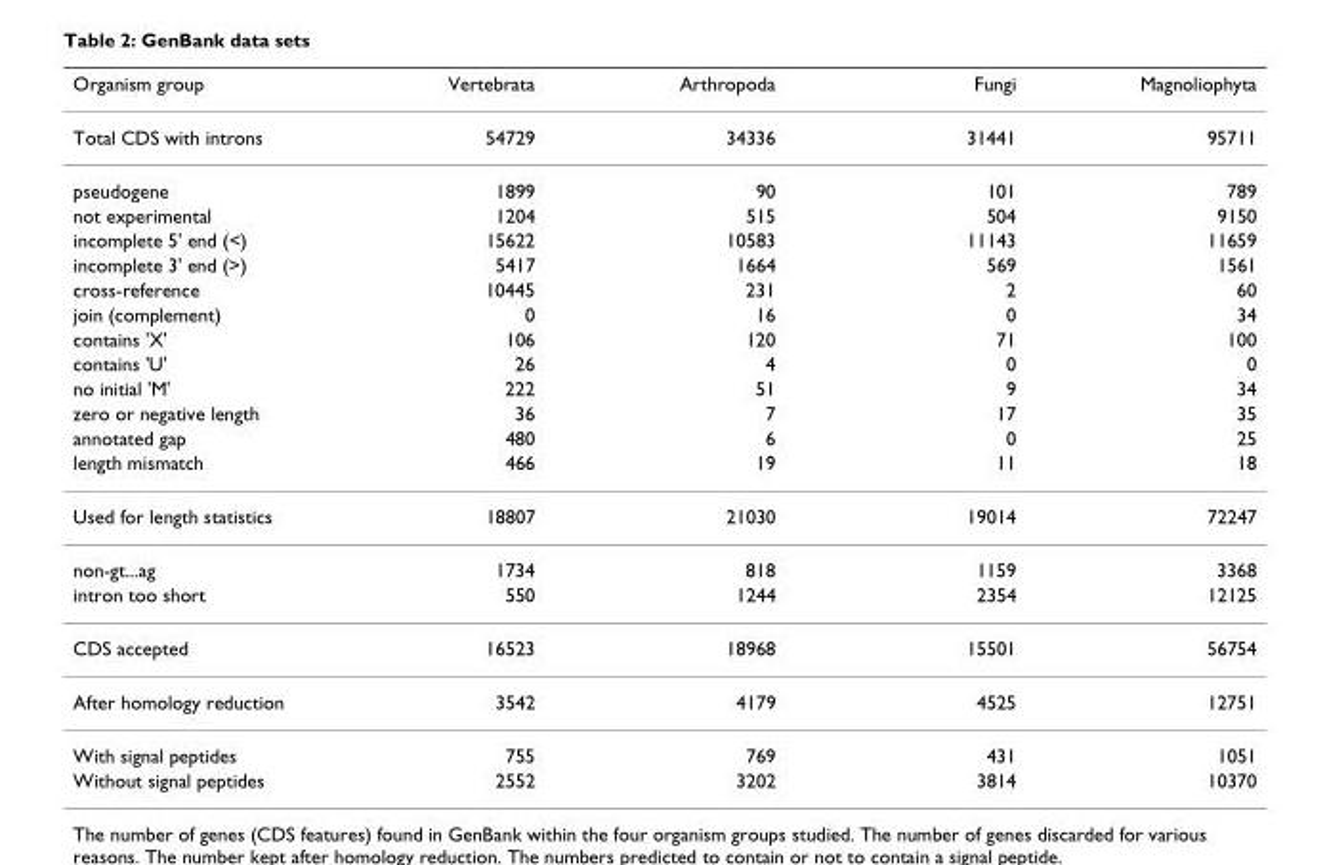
<table><thead><tr><td>Organism group</td><td>Vertebrata</td><td>Arthropoda</td><td>Fungi</td><td>Magnoliophyta</td></tr></thead><tbody><tr><td>Total CDS with introns</td><td>54729</td><td>34336</td><td>31441</td><td>95711</td></tr><tr><td>pseudogene</td><td>1899</td><td>90</td><td>101</td><td>789</td></tr><tr><td>not experimental</td><td>1204</td><td>515</td><td>504</td><td>9150</td></tr><tr><td>incomplete 5&#x27; end (&lt;)</td><td>15622</td><td>10583</td><td>11143</td><td>11659</td></tr><tr><td>incomplete 3&#x27; end (&gt;)</td><td>5417</td><td>1664</td><td>569</td><td>1561</td></tr><tr><td>cross-reference</td><td>10445</td><td>231</td><td>2</td><td>60</td></tr><tr><td>join (complement)</td><td>0</td><td>16</td><td>0</td><td>34</td></tr><tr><td>contains &#x27;X&#x27;</td><td>106</td><td>120</td><td>71</td><td>100</td></tr><tr><td>contains &#x27;U&#x27;</td><td>26</td><td>4</td><td>0</td><td>0</td></tr><tr><td>no initial &#x27;M&#x27;</td><td>222</td><td>51</td><td>9</td><td>34</td></tr><tr><td>zero or negative length</td><td>36</td><td>7</td><td>17</td><td>35</td></tr><tr><td>annotated gap</td><td>480</td><td>6</td><td>0</td><td>25</td></tr><tr><td>length mismatch</td><td>466</td><td>19</td><td>11</td><td>18</td></tr><tr><td>Used for length statistics</td><td>18807</td><td>21030</td><td>19014</td><td>72247</td></tr><tr><td>non-gt...ag</td><td>1734</td><td>818</td><td>1159</td><td>3368</td></tr><tr><td>intron too short</td><td>550</td><td>1244</td><td>2354</td><td>12125</td></tr><tr><td>CDS accepted</td><td>16523</td><td>18968</td><td>15501</td><td>56754</td></tr><tr><td>After homology reduction</td><td>3542</td><td>4179</td><td>4525</td><td>12751</td></tr><tr><td>With signal peptides</td><td>755</td><td>769</td><td>431</td><td>1051</td></tr><tr><td>Without signal peptides</td><td>2552</td><td>3202</td><td>3814</td><td>10370</td></tr></tbody></table>